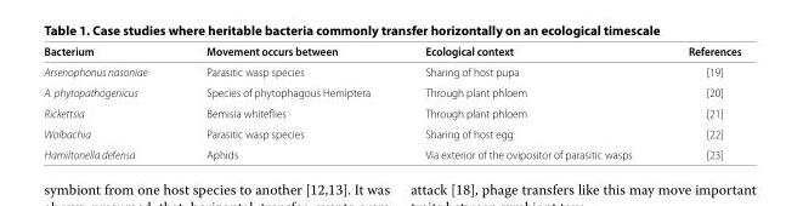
<table><thead><tr><td>Bacterium</td><td>Movement occurs between</td><td>Ecological context</td><td>References</td></tr></thead><tbody><tr><td>Arsenophonus nasoniae</td><td>Parasitic wasp species</td><td>Sharing of host pupa</td><td>[19]</td></tr><tr><td>A. phytopathogenicus</td><td>Species of phytophagous Hemiptera</td><td>Through plant phloem</td><td>[20]</td></tr><tr><td>Rickettsia</td><td>Bemisia whiteflies</td><td>Through plant phloem</td><td>[21]</td></tr><tr><td>Wolbachia</td><td>Parasitic wasp species</td><td>Sharing of host egg</td><td>[22]</td></tr><tr><td>Hamiltonella defensa</td><td>Aphids</td><td>Via exterior of the ovipositor of parasitic wasps</td><td>[23]</td></tr></tbody></table>